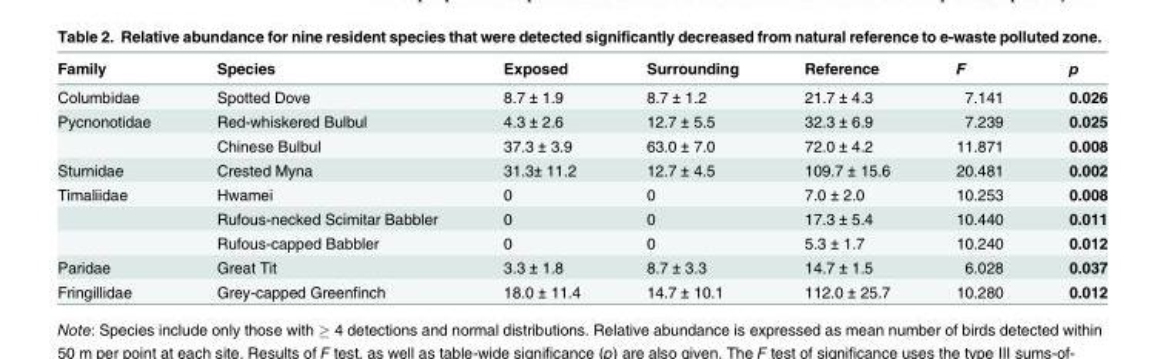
<table><thead><tr><td>Family</td><td>Species</td><td>Exposed</td><td>Surrounding</td><td>Reference</td><td>F</td><td>p</td></tr></thead><tbody><tr><td>Columbidae</td><td>Spotted Dove</td><td>8.7 ± 1.9</td><td>8.7 ± 1.2</td><td>21.7 ± 4.3</td><td>7.141</td><td>0.026</td></tr><tr><td rowspan="2">Pycnonotidae</td><td>Red-whiskered Bulbul</td><td>4.3 ± 2.6</td><td>12.7 ± 5.5</td><td>32.3 ± 6.9</td><td>7.239</td><td>0.025</td></tr><tr><td>Chinese Bulbul</td><td>37.3 ± 3.9</td><td>63.0 ± 7.0</td><td>72.0 ± 4.2</td><td>11.871</td><td>0.008</td></tr><tr><td>Sturnidae</td><td>Crested Myna</td><td>31.3± 11.2</td><td>12.7 ± 4.5</td><td>109.7 ± 15.6</td><td>20.481</td><td>0.002</td></tr><tr><td rowspan="3">Timaliidae</td><td>Hwamei</td><td>0</td><td>0</td><td>7.0 ± 2.0</td><td>10.253</td><td>0.008</td></tr><tr><td>Rufous-necked Scimitar Babbler</td><td>0</td><td>0</td><td>17.3 ± 5.4</td><td>10.440</td><td>0.011</td></tr><tr><td>Rufous-capped Babbler</td><td>0</td><td>0</td><td>5.3 ± 1.7</td><td>10.240</td><td>0.012</td></tr><tr><td>Paridae</td><td>Great Tit</td><td>3.3 ± 1.8</td><td>8.7 ± 3.3</td><td>14.7 ± 1.5</td><td>6.028</td><td>0.037</td></tr><tr><td>Fringillidae</td><td>Grey-capped Greenfinch</td><td>18.0 ± 11.4</td><td>14.7 ± 10.1</td><td>112.0 ± 25.7</td><td>10.280</td><td>0.012</td></tr></tbody></table>